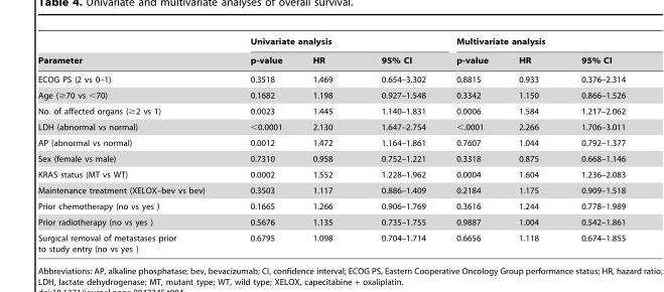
<table><thead><tr><td rowspan="2">Parameter</td><td colspan="3">Univariate analysis</td><td colspan="3">Multivariate analysis</td></tr><tr><td>p-value</td><td>HR</td><td>95% CI</td><td>p-value</td><td>HR</td><td>95% CI</td></tr></thead><tbody><tr><td>ECOG PS (2 vs 0–1)</td><td>0.3518</td><td>1.469</td><td>0.654–3.302</td><td>0.8815</td><td>0.933</td><td>0.376–2.314</td></tr><tr><td>Age (≥70 vs &lt;70)</td><td>0.1682</td><td>1.198</td><td>0.927–1.548</td><td>0.3342</td><td>1.150</td><td>0.866–1.526</td></tr><tr><td>No. of affected organs (≥2 vs 1)</td><td>0.0023</td><td>1.445</td><td>1.140–1.831</td><td>0.0006</td><td>1.584</td><td>1.217–2.062</td></tr><tr><td>LDH (abnormal vs normal)</td><td>&lt;0.0001</td><td>2.130</td><td>1.647–2.754</td><td>&lt;.0001</td><td>2.266</td><td>1.706–3.011</td></tr><tr><td>AP (abnormal vs normal)</td><td>0.0012</td><td>1.472</td><td>1.164–1.861</td><td>0.7607</td><td>1.044</td><td>0.792–1.377</td></tr><tr><td>Sex (female vs male)</td><td>0.7310</td><td>0.958</td><td>0.752–1.221</td><td>0.3318</td><td>0.875</td><td>0.668–1.146</td></tr><tr><td>KRAS status (MT vs WT)</td><td>0.0002</td><td>1.552</td><td>1.228–1.962</td><td>0.0004</td><td>1.604</td><td>1.236–2.083</td></tr><tr><td>Maintenance treatment (XELOX–bev vs bev)</td><td>0.3503</td><td>1.117</td><td>0.886–1.409</td><td>0.2184</td><td>1.175</td><td>0.909–1.518</td></tr><tr><td>Prior chemotherapy (no vs yes )</td><td>0.1665</td><td>1.266</td><td>0.906–1.769</td><td>0.3616</td><td>1.244</td><td>0.778–1.989</td></tr><tr><td>Prior radiotherapy (no vs yes )</td><td>0.5676</td><td>1.135</td><td>0.735–1.755</td><td>0.9887</td><td>1.004</td><td>0.542–1.861</td></tr><tr><td>Surgical removal of metastases prior to study entry (no vs yes )</td><td>0.6795</td><td>1.098</td><td>0.704–1.714</td><td>0.6656</td><td>1.118</td><td>0.674–1.855</td></tr></tbody></table>